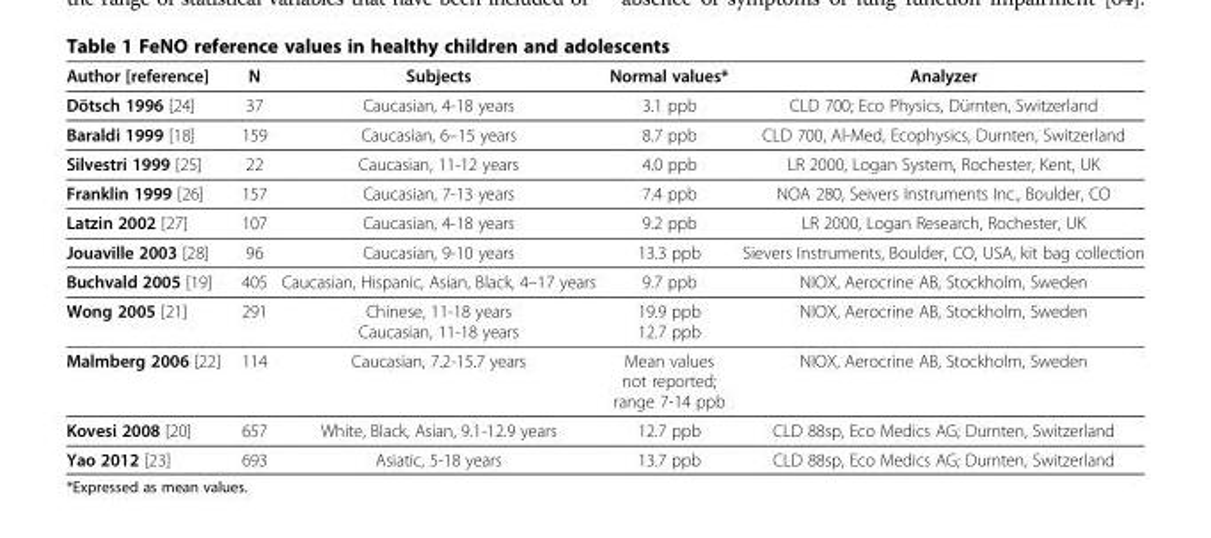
<table><thead><tr><td>Author [reference]</td><td>N</td><td>Subjects</td><td>Normal values*</td><td>Analyzer</td></tr></thead><tbody><tr><td>Dötsch 1996 [24]</td><td>37</td><td>Caucasian, 4-18 years</td><td>3.1 ppb</td><td>CLD 700; Eco Physics, Dürnten, Switzerland</td></tr><tr><td>Baraldi 1999 [18]</td><td>159</td><td>Caucasian, 6–15 years</td><td>8.7 ppb</td><td>CLD 700, Al-Med, Ecophysics, Durnten, Switzerland</td></tr><tr><td>Silvestri 1999 [25]</td><td>22</td><td>Caucasian, 11-12 years</td><td>4.0 ppb</td><td>LR 2000, Logan System, Rochester, Kent, UK</td></tr><tr><td>Franklin 1999 [26]</td><td>157</td><td>Caucasian, 7-13 years</td><td>7.4 ppb</td><td>NOA 280, Seivers Instruments Inc., Boulder, CO</td></tr><tr><td>Latzin 2002 [27]</td><td>107</td><td>Caucasian, 4-18 years</td><td>9.2 ppb</td><td>LR 2000, Logan Research, Rochester, UK</td></tr><tr><td>Jouaville 2003 [28]</td><td>96</td><td>Caucasian, 9-10 years</td><td>13.3 ppb</td><td>Sievers Instruments, Boulder, CO, USA, kit bag collection</td></tr><tr><td>Buchvald 2005 [19]</td><td>405</td><td>Caucasian, Hispanic, Asian, Black, 4–17 years</td><td>9.7 ppb</td><td>NIOX, Aerocrine AB, Stockholm, Sweden</td></tr><tr><td rowspan="2">Wong 2005 [21]</td><td>291</td><td>Chinese, 11-18 years</td><td>19.9 ppb</td><td>NIOX, Aerocrine AB, Stockholm, Sweden</td></tr><tr><td></td><td>Caucasian, 11-18 years</td><td>12.7 ppb</td><td></td></tr><tr><td>Malmberg 2006 [22]</td><td>114</td><td>Caucasian, 7.2-15.7 years</td><td>Mean values not reported; range 7-14 ppb</td><td>NIOX, Aerocrine AB, Stockholm, Sweden</td></tr><tr><td>Kovesi 2008 [20]</td><td>657</td><td>White, Black, Asian, 9.1-12.9 years</td><td>12.7 ppb</td><td>CLD 88sp, Eco Medics AG; Durnten, Switzerland</td></tr><tr><td>Yao 2012 [23]</td><td>693</td><td>Asiatic, 5-18 years</td><td>13.7 ppb</td><td>CLD 88sp, Eco Medics AG; Durnten, Switzerland</td></tr></tbody></table>